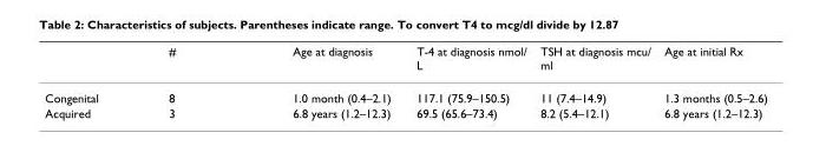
<table><thead><tr><td></td><td>#</td><td>Age at diagnosis</td><td>T-4 at diagnosis nmol/ L</td><td>TSH at diagnosis mcu/ ml</td><td>Age at initial Rx</td></tr></thead><tbody><tr><td>Congenital</td><td>8</td><td>1.0 month (0.4–2.1)</td><td>117.1 (75.9–150.5)</td><td>11 (7.4–14.9)</td><td>1.3 months (0.5–2.6)</td></tr><tr><td>Acquired</td><td>3</td><td>6.8 years (1.2–12.3)</td><td>69.5 (65.6–73.4)</td><td>8.2 (5.4–12.1)</td><td>6.8 years (1.2–12.3)</td></tr></tbody></table>